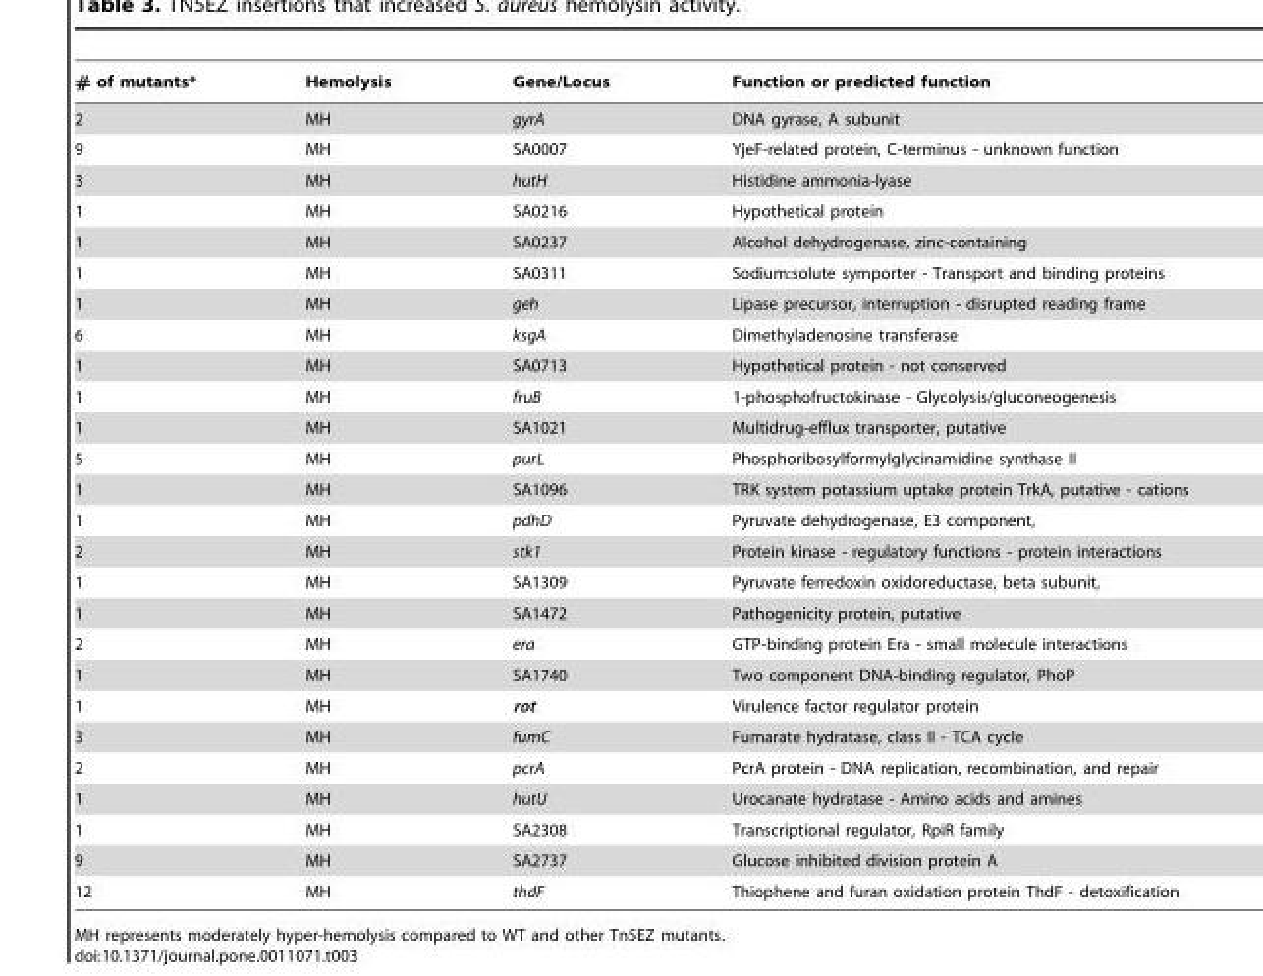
<table><thead><tr><td># of mutants*</td><td>Hemolysis</td><td>Gene/Locus</td><td>Function or predicted function</td></tr></thead><tbody><tr><td>2</td><td>MH</td><td>gyrA</td><td>DNA gyrase, A subunit</td></tr><tr><td>9</td><td>MH</td><td>SA0007</td><td>YjeF-related protein, C-terminus - unknown function</td></tr><tr><td>3</td><td>MH</td><td>hutH</td><td>Histidine ammonia-lyase</td></tr><tr><td>1</td><td>MH</td><td>SA0216</td><td>Hypothetical protein</td></tr><tr><td>1</td><td>MH</td><td>SA0237</td><td>Alcohol dehydrogenase, zinc-containing</td></tr><tr><td>1</td><td>MH</td><td>SA0311</td><td>Sodium:solute symporter - Transport and binding proteins</td></tr><tr><td>1</td><td>MH</td><td>geh</td><td>Lipase precursor, interruption - disrupted reading frame</td></tr><tr><td>6</td><td>MH</td><td>ksgA</td><td>Dimethyladenosine transferase</td></tr><tr><td>1</td><td>MH</td><td>SA0713</td><td>Hypothetical protein - not conserved</td></tr><tr><td>1</td><td>MH</td><td>fruB</td><td>1-phosphofructokinase - Glycolysis/gluconeogenesis</td></tr><tr><td>1</td><td>MH</td><td>SA1021</td><td>Multidrug-efflux transporter, putative</td></tr><tr><td>5</td><td>MH</td><td>purL</td><td>Phosphoribosylformylglycinamidine synthase II</td></tr><tr><td>1</td><td>MH</td><td>SA1096</td><td>TRK system potassium uptake protein TrkA, putative - cations</td></tr><tr><td>1</td><td>MH</td><td>pdhD</td><td>Pyruvate dehydrogenase, E3 component,</td></tr><tr><td>2</td><td>MH</td><td>stk1</td><td>Protein kinase - regulatory functions - protein interactions</td></tr><tr><td>1</td><td>MH</td><td>SA1309</td><td>Pyruvate ferredoxin oxidoreductase, beta subunit,</td></tr><tr><td>1</td><td>MH</td><td>SA1472</td><td>Pathogenicity protein, putative</td></tr><tr><td>2</td><td>MH</td><td>era</td><td>GTP-binding protein Era - small molecule interactions</td></tr><tr><td>1</td><td>MH</td><td>SA1740</td><td>Two component DNA-binding regulator, PhoP</td></tr><tr><td>1</td><td>MH</td><td>rot</td><td>Virulence factor regulator protein</td></tr><tr><td>3</td><td>MH</td><td>fumC</td><td>Fumarate hydratase, class II - TCA cycle</td></tr><tr><td>2</td><td>MH</td><td>pcrA</td><td>PcrA protein - DNA replication, recombination, and repair</td></tr><tr><td>1</td><td>MH</td><td>hutU</td><td>Urocanate hydratase - Amino acids and amines</td></tr><tr><td>1</td><td>MH</td><td>SA2308</td><td>Transcriptional regulator, RpiR family</td></tr><tr><td>9</td><td>MH</td><td>SA2737</td><td>Glucose inhibited division protein A</td></tr><tr><td>12</td><td>MH</td><td>thdF</td><td>Thiophene and furan oxidation protein ThdF - detoxification</td></tr></tbody></table>